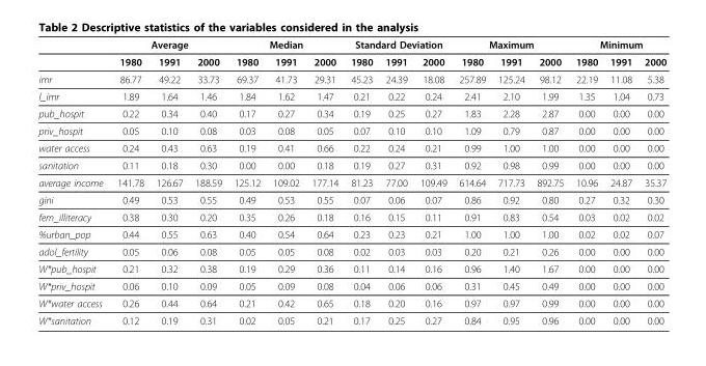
<table><thead><tr><td rowspan="2"></td><td colspan="3">Average</td><td colspan="3">Median</td><td colspan="3">Standard Deviation</td><td colspan="3">Maximum</td><td colspan="3">Minimum</td></tr><tr><td>1980</td><td>1991</td><td>2000</td><td>1980</td><td>1991</td><td>2000</td><td>1980</td><td>1991</td><td>2000</td><td>1980</td><td>1991</td><td>2000</td><td>1980</td><td>1991</td><td>2000</td></tr></thead><tbody><tr><td>imr</td><td>86.77</td><td>49.22</td><td>33.73</td><td>69.37</td><td>41.73</td><td>29.31</td><td>45.23</td><td>24.39</td><td>18.08</td><td>257.89</td><td>125.24</td><td>98.12</td><td>22.19</td><td>11.08</td><td>5.38</td></tr><tr><td>l_imr</td><td>1.89</td><td>1.64</td><td>1.46</td><td>1.84</td><td>1.62</td><td>1.47</td><td>0.21</td><td>0.22</td><td>0.24</td><td>2.41</td><td>2.10</td><td>1.99</td><td>1.35</td><td>1.04</td><td>0.73</td></tr><tr><td>pub_hospit</td><td>0.22</td><td>0.34</td><td>0.40</td><td>0.17</td><td>0.27</td><td>0.34</td><td>0.19</td><td>0.25</td><td>0.27</td><td>1.83</td><td>2.28</td><td>2.87</td><td>0.00</td><td>0.00</td><td>0.00</td></tr><tr><td>priv_hospit</td><td>0.05</td><td>0.10</td><td>0.08</td><td>0.03</td><td>0.08</td><td>0.05</td><td>0.07</td><td>0.10</td><td>0.10</td><td>1.09</td><td>0.79</td><td>0.87</td><td>0.00</td><td>0.00</td><td>0.00</td></tr><tr><td>water access</td><td>0.24</td><td>0.43</td><td>0.63</td><td>0.19</td><td>0.41</td><td>0.66</td><td>0.22</td><td>0.24</td><td>0.21</td><td>0.99</td><td>1.00</td><td>1.00</td><td>0.00</td><td>0.00</td><td>0.00</td></tr><tr><td>sanitation</td><td>0.11</td><td>0.18</td><td>0.30</td><td>0.00</td><td>0.00</td><td>0.18</td><td>0.19</td><td>0.27</td><td>0.31</td><td>0.92</td><td>0.98</td><td>0.99</td><td>0.00</td><td>0.00</td><td>0.00</td></tr><tr><td>average income</td><td>141.78</td><td>126.67</td><td>188.59</td><td>125.12</td><td>109.02</td><td>177.14</td><td>81.23</td><td>77.00</td><td>109.49</td><td>614.64</td><td>717.73</td><td>892.75</td><td>10.96</td><td>24.87</td><td>35.37</td></tr><tr><td>gini</td><td>0.49</td><td>0.53</td><td>0.55</td><td>0.49</td><td>0.53</td><td>0.55</td><td>0.07</td><td>0.06</td><td>0.07</td><td>0.86</td><td>0.92</td><td>0.80</td><td>0.27</td><td>0.32</td><td>0.30</td></tr><tr><td>fem_illiteracy</td><td>0.38</td><td>0.30</td><td>0.20</td><td>0.35</td><td>0.26</td><td>0.18</td><td>0.16</td><td>0.15</td><td>0.11</td><td>0.91</td><td>0.83</td><td>0.54</td><td>0.03</td><td>0.02</td><td>0.02</td></tr><tr><td>%urban_pop</td><td>0.44</td><td>0.55</td><td>0.63</td><td>0.40</td><td>0.54</td><td>0.64</td><td>0.23</td><td>0.23</td><td>0.21</td><td>1.00</td><td>1.00</td><td>1.00</td><td>0.02</td><td>0.02</td><td>0.07</td></tr><tr><td>adol_fertility</td><td>0.05</td><td>0.06</td><td>0.08</td><td>0.05</td><td>0.05</td><td>0.08</td><td>0.02</td><td>0.03</td><td>0.03</td><td>0.20</td><td>0.21</td><td>0.26</td><td>0.00</td><td>0.00</td><td>0.00</td></tr><tr><td>W*pub_hospit</td><td>0.21</td><td>0.32</td><td>0.38</td><td>0.19</td><td>0.29</td><td>0.36</td><td>0.11</td><td>0.14</td><td>0.16</td><td>0.96</td><td>1.40</td><td>1.67</td><td>0.00</td><td>0.00</td><td>0.00</td></tr><tr><td>W*priv_hospit</td><td>0.06</td><td>0.10</td><td>0.09</td><td>0.05</td><td>0.09</td><td>0.08</td><td>0.04</td><td>0.06</td><td>0.06</td><td>0.31</td><td>0.45</td><td>0.49</td><td>0.00</td><td>0.00</td><td>0.00</td></tr><tr><td>W*water access</td><td>0.26</td><td>0.44</td><td>0.64</td><td>0.21</td><td>0.42</td><td>0.65</td><td>0.18</td><td>0.20</td><td>0.16</td><td>0.97</td><td>0.97</td><td>0.99</td><td>0.00</td><td>0.00</td><td>0.00</td></tr><tr><td>W*sanitation</td><td>0.12</td><td>0.19</td><td>0.31</td><td>0.02</td><td>0.05</td><td>0.21</td><td>0.17</td><td>0.25</td><td>0.27</td><td>0.84</td><td>0.95</td><td>0.96</td><td>0.00</td><td>0.00</td><td>0.00</td></tr></tbody></table>